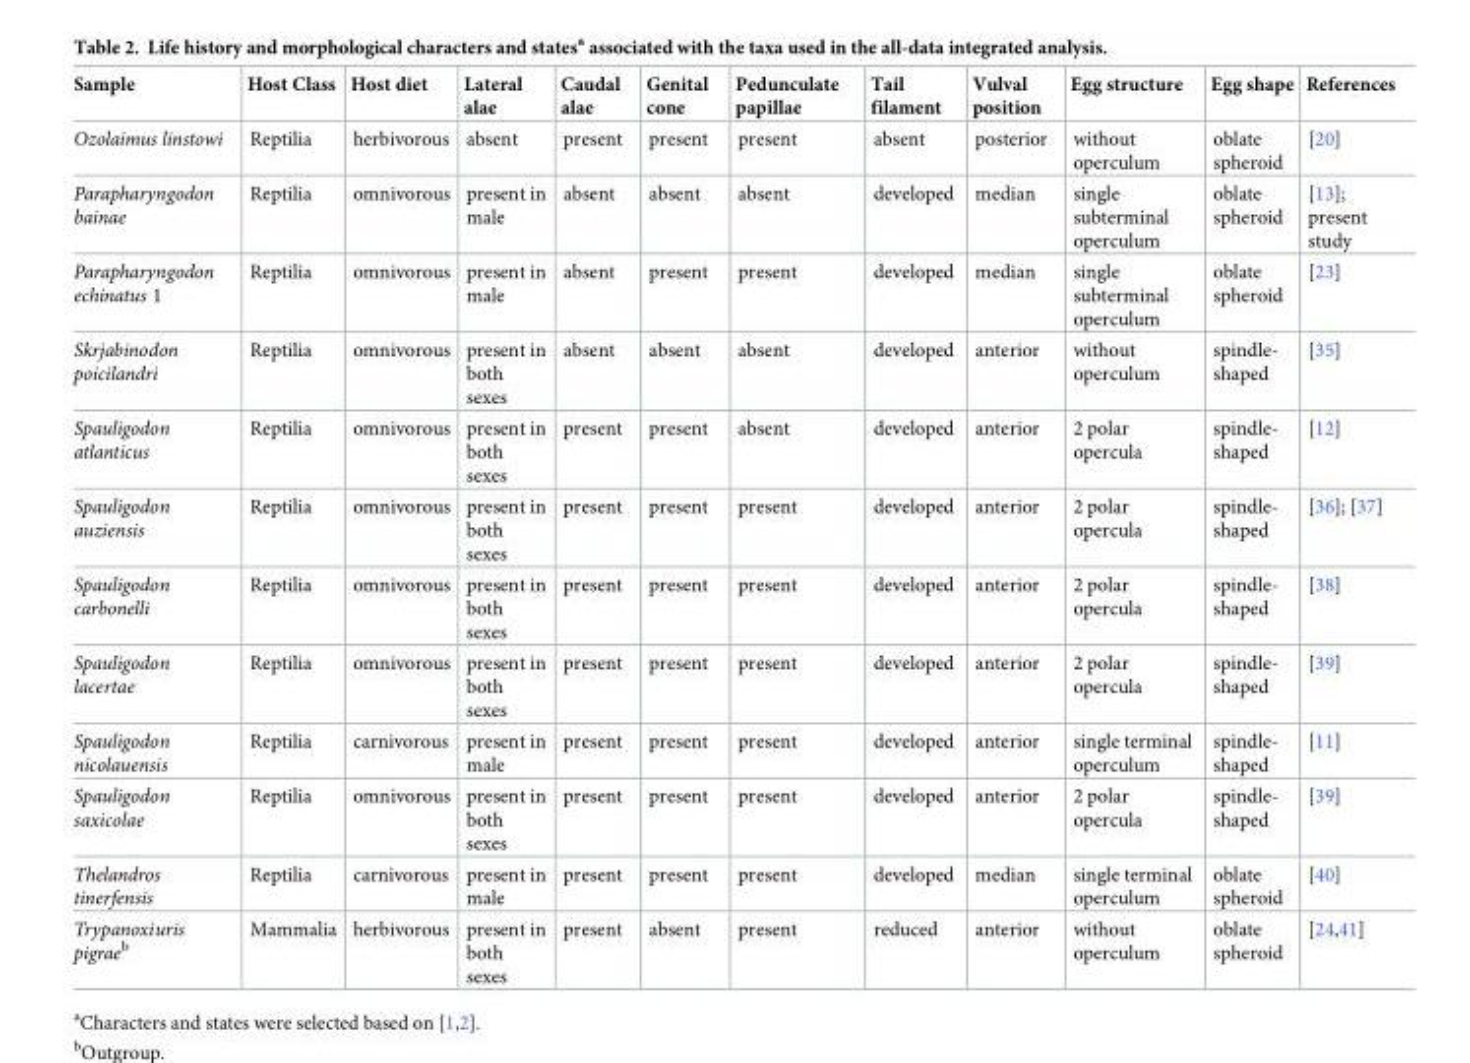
<table><thead><tr><td>Sample</td><td>Host Class</td><td>Host diet</td><td>Lateral alae</td><td>Caudal alae</td><td>Genital cone</td><td>Pedunculate papillae</td><td>Tail filament</td><td>Vulval position</td><td>Egg structure</td><td>Egg shape</td><td>References</td></tr></thead><tbody><tr><td>Ozolaimus linstowi</td><td>Reptilia</td><td>herbivorous</td><td>absent</td><td>present</td><td>present</td><td>present</td><td>absent</td><td>posterior</td><td>without operculum</td><td>oblate spheroid</td><td>[20]</td></tr><tr><td>Parapharyngodon bainae</td><td>Reptilia</td><td>omnivorous</td><td>present in male</td><td>absent</td><td>absent</td><td>absent</td><td>developed</td><td>median</td><td>single subterminal operculum</td><td>oblate spheroid</td><td>[13]; present study</td></tr><tr><td>Parapharyngodon echinatus 1</td><td>Reptilia</td><td>omnivorous</td><td>present in male</td><td>absent</td><td>present</td><td>present</td><td>developed</td><td>median</td><td>single subterminal operculum</td><td>oblate spheroid</td><td>[23]</td></tr><tr><td>Skrjabinodon poicilandri</td><td>Reptilia</td><td>omnivorous</td><td>present in both sexes</td><td>absent</td><td>absent</td><td>absent</td><td>developed</td><td>anterior</td><td>without operculum</td><td>spindle- shaped</td><td>[35]</td></tr><tr><td>Spauligodon atlanticus</td><td>Reptilia</td><td>omnivorous</td><td>present in both sexes</td><td>present</td><td>present</td><td>absent</td><td>developed</td><td>anterior</td><td>2 polar opercula</td><td>spindle- shaped</td><td>[12]</td></tr><tr><td>Spauligodon auziensis</td><td>Reptilia</td><td>omnivorous</td><td>present in both sexes</td><td>present</td><td>present</td><td>present</td><td>developed</td><td>anterior</td><td>2 polar opercula</td><td>spindle- shaped</td><td>[36]; [37]</td></tr><tr><td>Spauligodon carbonelli</td><td>Reptilia</td><td>omnivorous</td><td>present in both sexes</td><td>present</td><td>present</td><td>present</td><td>developed</td><td>anterior</td><td>2 polar opercula</td><td>spindle- shaped</td><td>[38]</td></tr><tr><td>Spauligodon lacertae</td><td>Reptilia</td><td>omnivorous</td><td>present in both sexes</td><td>present</td><td>present</td><td>present</td><td>developed</td><td>anterior</td><td>2 polar opercula</td><td>spindle- shaped</td><td>[39]</td></tr><tr><td>Spauligodon nicolauensis</td><td>Reptilia</td><td>carnivorous</td><td>present in male</td><td>present</td><td>present</td><td>present</td><td>developed</td><td>anterior</td><td>single terminal operculum</td><td>spindle- shaped</td><td>[11]</td></tr><tr><td>Spauligodon saxicolae</td><td>Reptilia</td><td>omnivorous</td><td>present in both sexes</td><td>present</td><td>present</td><td>present</td><td>developed</td><td>anterior</td><td>2 polar opercula</td><td>spindle- shaped</td><td>[39]</td></tr><tr><td>Thelandros tinerfensis</td><td>Reptilia</td><td>carnivorous</td><td>present in male</td><td>present</td><td>present</td><td>present</td><td>developed</td><td>median</td><td>single terminal operculum</td><td>oblate spheroid</td><td>[40]</td></tr><tr><td>Trypanoxiuris pigrae<sup>b</sup></td><td>Mammalia</td><td>herbivorous</td><td>present in both sexes</td><td>present</td><td>absent</td><td>present</td><td>reduced</td><td>anterior</td><td>without operculum</td><td>oblate spheroid</td><td>[24,41]</td></tr></tbody></table>